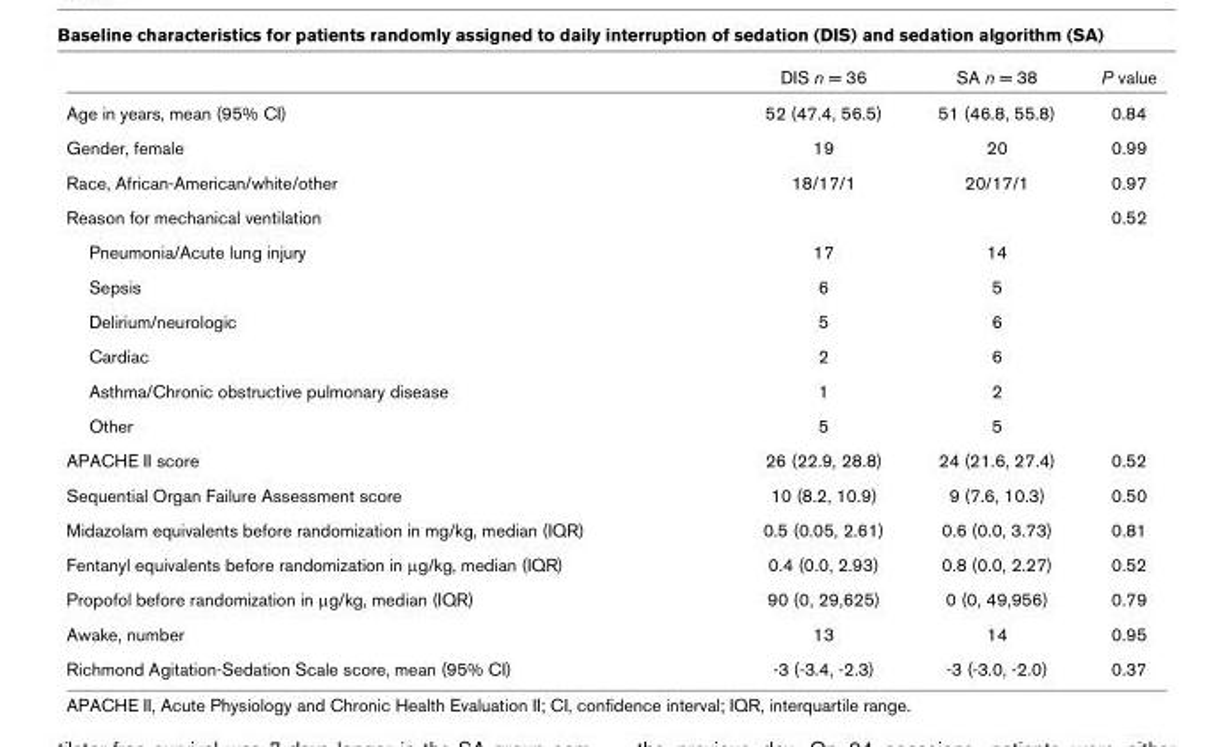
<table><thead><tr><td></td><td>DIS n = 36</td><td>SA n = 38</td><td>P value</td></tr></thead><tbody><tr><td>Age in years, mean (95% CI)</td><td>52 (47.4, 56.5)</td><td>51 (46.8, 55.8)</td><td>0.84</td></tr><tr><td>Gender, female</td><td>19</td><td>20</td><td>0.99</td></tr><tr><td>Race, African-American/white/other</td><td>18/17/1</td><td>20/17/1</td><td>0.97</td></tr><tr><td>Reason for mechanical ventilation</td><td></td><td></td><td>0.52</td></tr><tr><td>Pneumonia/Acute lung injury</td><td>17</td><td>14</td><td></td></tr><tr><td>Sepsis</td><td>6</td><td>5</td><td></td></tr><tr><td>Delirium/neurologic</td><td>5</td><td>6</td><td></td></tr><tr><td>Cardiac</td><td>2</td><td>6</td><td></td></tr><tr><td>Asthma/Chronic obstructive pulmonary disease</td><td>1</td><td>2</td><td></td></tr><tr><td>Other</td><td>5</td><td>5</td><td></td></tr><tr><td>APACHE II score</td><td>26 (22.9, 28.8)</td><td>24 (21.6, 27.4)</td><td>0.52</td></tr><tr><td>Sequential Organ Failure Assessment score</td><td>10 (8.2, 10.9)</td><td>9 (7.6, 10.3)</td><td>0.50</td></tr><tr><td>Midazolam equivalents before randomization in mg/kg, median (IQR)</td><td>0.5 (0.05, 2.61)</td><td>0.6 (0.0, 3.73)</td><td>0.81</td></tr><tr><td>Fentanyl equivalents before randomization in μg/kg, median (IQR)</td><td>0.4 (0.0, 2.93)</td><td>0.8 (0.0, 2.27)</td><td>0.52</td></tr><tr><td>Propofol before randomization in μg/kg, median (IQR)</td><td>90 (0, 29,625)</td><td>0 (0, 49,956)</td><td>0.79</td></tr><tr><td>Awake, number</td><td>13</td><td>14</td><td>0.95</td></tr><tr><td>Richmond Agitation-Sedation Scale score, mean (95% CI)</td><td>-3 (-3.4, -2.3)</td><td>-3 (-3.0, -2.0)</td><td>0.37</td></tr></tbody></table>